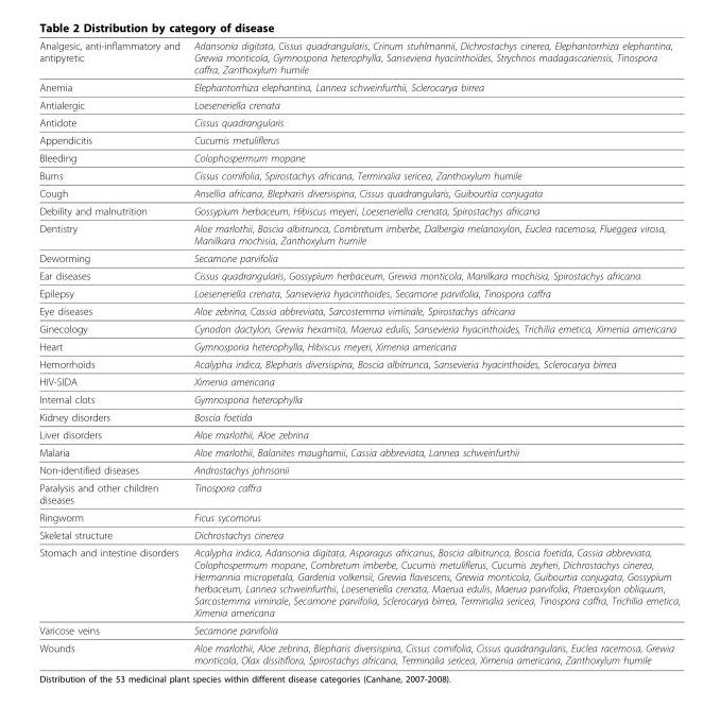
<table><thead><tr><td>Analgesic, anti-inflammatory and antipyretic</td><td>Adansonia digitata, Cissus quadrangularis, Crinum stuhlmannii, Dichrostachys cinerea, Elephantorrhiza elephantina, Grewia monticola, Gymnosporia heterophylla, Sansevieria hyacinthoides, Strychnos madagascariensis, Tinospora caffra, Zanthoxylum humile</td></tr></thead><tbody><tr><td>Anemia</td><td>Elephantorrhiza elephantina, Lannea schweinfurthii, Sclerocarya birrea</td></tr><tr><td>Antialergic</td><td>Loeseneriella crenata</td></tr><tr><td>Antidote</td><td>Cissus quadrangularis</td></tr><tr><td>Appendicitis</td><td>Cucumis metuliflerus</td></tr><tr><td>Bleeding</td><td>Colophospermum mopane</td></tr><tr><td>Burns</td><td>Cissus cornifolia, Spirostachys africana, Terminalia sericea, Zanthoxylum humile</td></tr><tr><td>Cough</td><td>Ansellia africana, Blepharis diversispina, Cissus quadrangularis, Guibourtia conjugata</td></tr><tr><td>Debility and malnutrition</td><td>Gossypium herbaceum, Hibiscus meyeri, Loeseneriella crenata, Spirostachys africana</td></tr><tr><td>Dentistry</td><td>Aloe marlothii, Boscia albitrunca, Combretum imberbe, Dalbergia melanoxylon, Euclea racemosa, Flueggea virosa, Manilkara mochisia, Zanthoxylum humile</td></tr><tr><td>Deworming</td><td>Secamone parvifolia</td></tr><tr><td>Ear diseases</td><td>Cissus quadrangularis, Gossypium herbaceum, Grewia monticola, Manilkara mochisia, Spirostachys africana</td></tr><tr><td>Epilepsy</td><td>Loeseneriella crenata, Sansevieria hyacinthoides, Secamone parvifolia, Tinospora caffra</td></tr><tr><td>Eye diseases</td><td>Aloe zebrina, Cassia abbreviata, Sarcostemma viminale, Spirostachys africana</td></tr><tr><td>Ginecology</td><td>Cynodon dactylon, Grewia hexamita, Maerua edulis, Sansevieria hyacinthoides, Trichilia emetica, Ximenia americana</td></tr><tr><td>Heart</td><td>Gymnosporia heterophylla, Hibiscus meyeri, Ximenia americana</td></tr><tr><td>Hemorrhoids</td><td>Acalypha indica, Blepharis diversispina, Boscia albitrunca, Sansevieria hyacinthoides, Sclerocarya birrea</td></tr><tr><td>HIV-SIDA</td><td>Ximenia americana</td></tr><tr><td>Internal clots</td><td>Gymnosporia heterophylla</td></tr><tr><td>Kidney disorders</td><td>Boscia foetida</td></tr><tr><td>Liver disorders</td><td>Aloe marlothii, Aloe zebrina</td></tr><tr><td>Malaria</td><td>Aloe marlothii, Balanites maughamii, Cassia abbreviata, Lannea schweinfurthii</td></tr><tr><td>Non-identified diseases</td><td>Androstachys johnsonii</td></tr><tr><td>Paralysis and other children diseases</td><td>Tinospora caffra</td></tr><tr><td>Ringworm</td><td>Ficus sycomorus</td></tr><tr><td>Skeletal structure</td><td>Dichrostachys cinerea</td></tr><tr><td>Stomach and intestine disorders</td><td>Acalypha indica, Adansonia digitata, Asparagus africanus, Boscia albitrunca, Boscia foetida, Cassia abbreviata, Colophospermum mopane, Combretum imberbe, Cucumis metuliflerus, Cucumis zeyheri, Dichrostachys cinerea, Hermannia micropetala, Gardenia volkensii, Grewia flavescens, Grewia monticola, Guibourtia conjugata, Gossypium herbaceum, Lannea schweinfurthii, Loeseneriella crenata, Maerua edulis, Maerua parvifolia, Ptaeroxylon obliquum, Sarcostemma viminale, Secamone parvifolia, Sclerocarya birrea, Terminalia sericea, Tinospora caffra, Trichilia emetica, Ximenia americana</td></tr><tr><td>Varicose veins</td><td>Secamone parvifolia</td></tr><tr><td>Wounds</td><td>Aloe marlothii, Aloe zebrina, Blepharis diversispina, Cissus cornifolia, Cissus quadrangularis, Euclea racemosa, Grewia monticola, Olax dissitiflora, Spirostachys africana, Terminalia sericea, Ximenia americana, Zanthoxylum humile</td></tr></tbody></table>